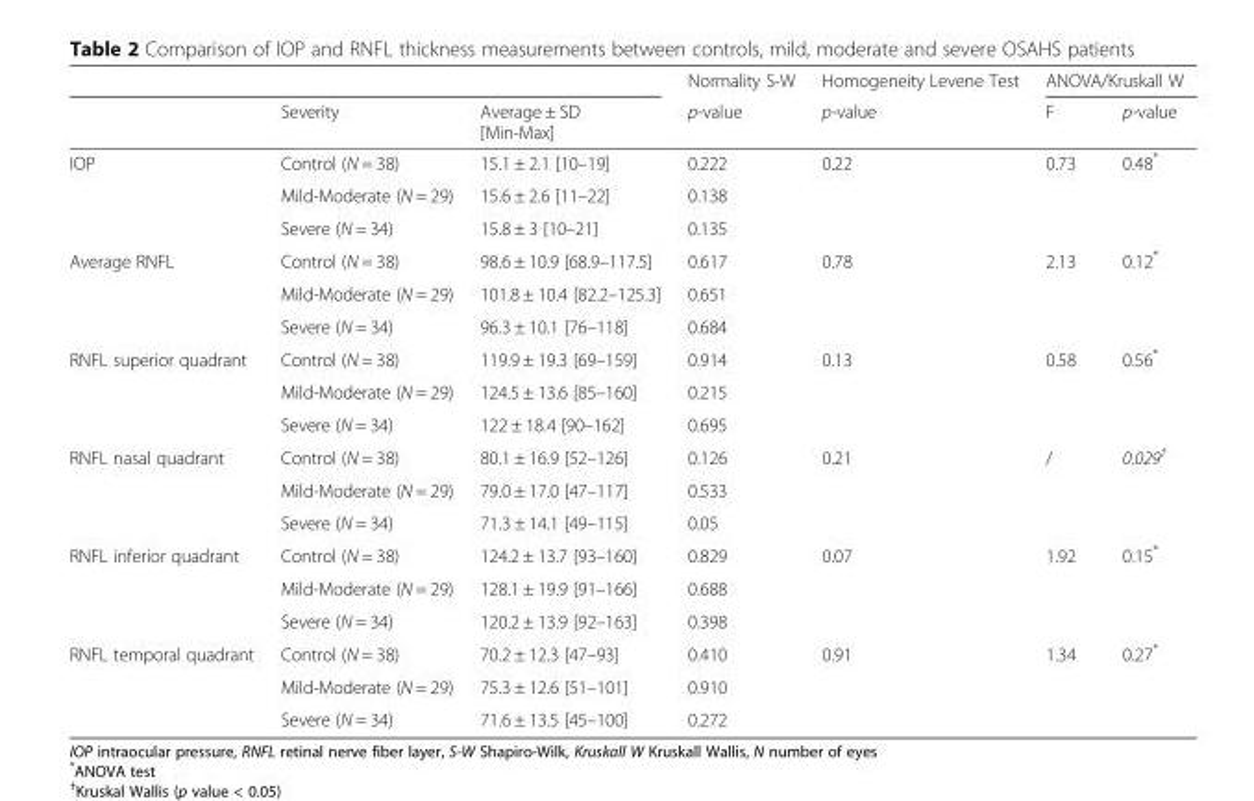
<table><thead><tr><td rowspan="2"></td><td rowspan="2">Severity</td><td rowspan="2">Average ± SD [Min-Max]</td><td rowspan="2">Normality S-W p-value</td><td rowspan="2">Homogeneity Levene Test p-value</td><td colspan="2">ANOVA/Kruskall W</td></tr><tr><td>F</td><td>p-value</td></tr></thead><tbody><tr><td rowspan="3">IOP</td><td>Control (N = 38)</td><td>15.1 ± 2.1 [10–19]</td><td>0.222</td><td rowspan="3">0.22</td><td rowspan="3">0.73</td><td rowspan="3">0.48*</td></tr><tr><td>Mild-Moderate (N = 29)</td><td>15.6 ± 2.6 [11–22]</td><td>0.138</td></tr><tr><td>Severe (N = 34)</td><td>15.8 ± 3 [10–21]</td><td>0.135</td></tr><tr><td rowspan="3">Average RNFL</td><td>Control (N = 38)</td><td>98.6 ± 10.9 [68.9–117.5]</td><td>0.617</td><td rowspan="3">0.78</td><td rowspan="3">2.13</td><td rowspan="3">0.12*</td></tr><tr><td>Mild-Moderate (N = 29)</td><td>101.8 ± 10.4 [82.2–125.3]</td><td>0.651</td></tr><tr><td>Severe (N = 34)</td><td>96.3 ± 10.1 [76–118]</td><td>0.684</td></tr><tr><td rowspan="3">RNFL superior quadrant</td><td>Control (N = 38)</td><td>119.9 ± 19.3 [69–159]</td><td>0.914</td><td rowspan="3">0.13</td><td rowspan="3">0.58</td><td rowspan="3">0.56*</td></tr><tr><td>Mild-Moderate (N = 29)</td><td>124.5 ± 13.6 [85–160]</td><td>0.215</td></tr><tr><td>Severe (N = 34)</td><td>122 ± 18.4 [90–162]</td><td>0.695</td></tr><tr><td rowspan="3">RNFL nasal quadrant</td><td>Control (N = 38)</td><td>80.1 ± 16.9 [52–126]</td><td>0.126</td><td rowspan="3">0.21</td><td rowspan="3">/</td><td rowspan="3">0.029<sup>†</sup></td></tr><tr><td>Mild-Moderate (N = 29)</td><td>79.0 ± 17.0 [47–117]</td><td>0.533</td></tr><tr><td>Severe (N = 34)</td><td>71.3 ± 14.1 [49–115]</td><td>0.05</td></tr><tr><td rowspan="3">RNFL inferior quadrant</td><td>Control (N = 38)</td><td>124.2 ± 13.7 [93–160]</td><td>0.829</td><td rowspan="3">0.07</td><td rowspan="3">1.92</td><td rowspan="3">0.15*</td></tr><tr><td>Mild-Moderate (N = 29)</td><td>128.1 ± 19.9 [91–166]</td><td>0.688</td></tr><tr><td>Severe (N = 34)</td><td>120.2 ± 13.9 [92–163]</td><td>0.398</td></tr><tr><td rowspan="3">RNFL temporal quadrant</td><td>Control (N = 38)</td><td>70.2 ± 12.3 [47–93]</td><td>0.410</td><td rowspan="3">0.91</td><td rowspan="3">1.34</td><td rowspan="3">0.27*</td></tr><tr><td>Mild-Moderate (N = 29)</td><td>75.3 ± 12.6 [51–101]</td><td>0.910</td></tr><tr><td>Severe (N = 34)</td><td>71.6 ± 13.5 [45–100]</td><td>0.272</td></tr></tbody></table>